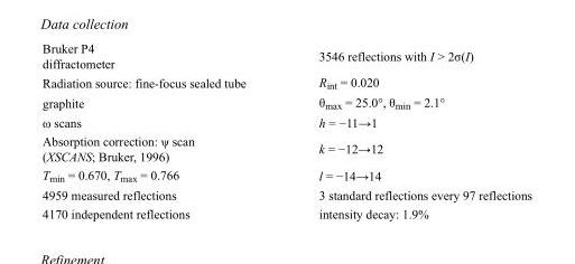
<table><tbody><tr><td>Bruker P4 diffractometer</td><td>3546 reflections with I &gt; 2σ(I)</td></tr><tr><td>Radiation source: fine-focus sealed tube</td><td>R<sub>int</sub> = 0.020</td></tr><tr><td>graphite</td><td>θ<sub>max</sub> = 25.0°, θ<sub>min</sub> = 2.1°</td></tr><tr><td>ω scans</td><td>h = −11→1</td></tr><tr><td>Absorption correction: ψ scan (XSCANS; Bruker, 1996)</td><td>k = −12→12</td></tr><tr><td>T<sub>min</sub> = 0.670, T<sub>max</sub> = 0.766</td><td>l = −14→14</td></tr><tr><td>4959 measured reflections</td><td>3 standard reflections every 97 reflections</td></tr><tr><td>4170 independent reflections</td><td>intensity decay: 1.9%</td></tr></tbody></table>